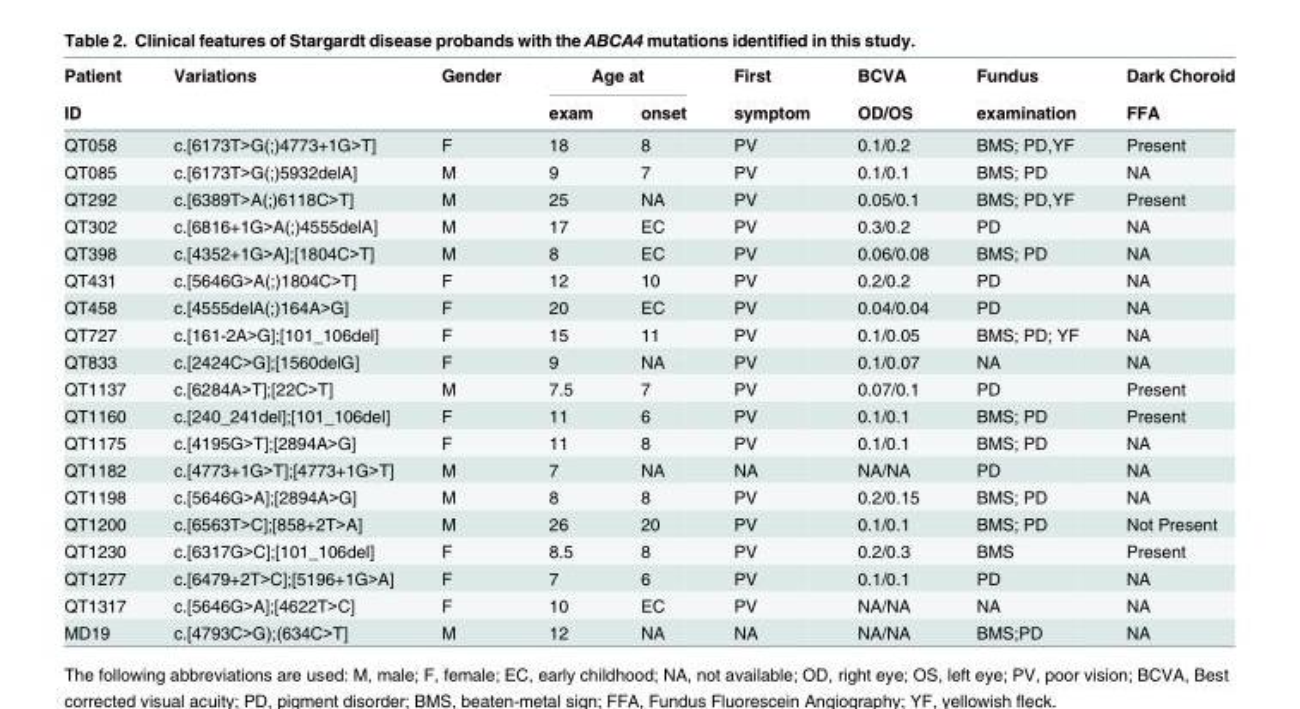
<table><thead><tr><td rowspan="2">Patient ID</td><td rowspan="2">Variations</td><td rowspan="2">Gender</td><td colspan="2">Age at</td><td rowspan="2">First symptom</td><td rowspan="2">BCVA OD/OS</td><td rowspan="2">Fundus examination</td><td rowspan="2">Dark Choroid FFA</td></tr><tr><td>exam</td><td>onset</td></tr></thead><tbody><tr><td>QT058</td><td>c.[6173T&gt;G(;)4773+1G&gt;T]</td><td>F</td><td>18</td><td>8</td><td>PV</td><td>0.1/0.2</td><td>BMS; PD,YF</td><td>Present</td></tr><tr><td>QT085</td><td>c.[6173T&gt;G(;)5932delA]</td><td>M</td><td>9</td><td>7</td><td>PV</td><td>0.1/0.1</td><td>BMS; PD</td><td>NA</td></tr><tr><td>QT292</td><td>c.[6389T&gt;A(;)6118C&gt;T]</td><td>M</td><td>25</td><td>NA</td><td>PV</td><td>0.05/0.1</td><td>BMS; PD,YF</td><td>Present</td></tr><tr><td>QT302</td><td>c.[6816+1G&gt;A(;)4555delA]</td><td>M</td><td>17</td><td>EC</td><td>PV</td><td>0.3/0.2</td><td>PD</td><td>NA</td></tr><tr><td>QT398</td><td>c.[4352+1G&gt;A];[1804C&gt;T]</td><td>M</td><td>8</td><td>EC</td><td>PV</td><td>0.06/0.08</td><td>BMS; PD</td><td>NA</td></tr><tr><td>QT431</td><td>c.[5646G&gt;A(;)1804C&gt;T]</td><td>F</td><td>12</td><td>10</td><td>PV</td><td>0.2/0.2</td><td>PD</td><td>NA</td></tr><tr><td>QT458</td><td>c.[4555delA(;)164A&gt;G]</td><td>F</td><td>20</td><td>EC</td><td>PV</td><td>0.04/0.04</td><td>PD</td><td>NA</td></tr><tr><td>QT727</td><td>c.[161-2A&gt;G];[101_106del]</td><td>F</td><td>15</td><td>11</td><td>PV</td><td>0.1/0.05</td><td>BMS; PD; YF</td><td>NA</td></tr><tr><td>QT833</td><td>c.[2424C&gt;G];[1560delG]</td><td>F</td><td>9</td><td>NA</td><td>PV</td><td>0.1/0.07</td><td>NA</td><td>NA</td></tr><tr><td>QT1137</td><td>c.[6284A&gt;T];[22C&gt;T]</td><td>M</td><td>7.5</td><td>7</td><td>PV</td><td>0.07/0.1</td><td>PD</td><td>Present</td></tr><tr><td>QT1160</td><td>c.[240_241del];[101_106del]</td><td>F</td><td>11</td><td>6</td><td>PV</td><td>0.1/0.1</td><td>BMS; PD</td><td>Present</td></tr><tr><td>QT1175</td><td>c.[4195G&gt;T];[2894A&gt;G]</td><td>F</td><td>11</td><td>8</td><td>PV</td><td>0.1/0.1</td><td>BMS; PD</td><td>NA</td></tr><tr><td>QT1182</td><td>c.[4773+1G&gt;T];[4773+1G&gt;T]</td><td>M</td><td>7</td><td>NA</td><td>NA</td><td>NA/NA</td><td>PD</td><td>NA</td></tr><tr><td>QT1198</td><td>c.[5646G&gt;A];[2894A&gt;G]</td><td>M</td><td>8</td><td>8</td><td>PV</td><td>0.2/0.15</td><td>BMS; PD</td><td>NA</td></tr><tr><td>QT1200</td><td>c.[6563T&gt;C];[858+2T&gt;A]</td><td>M</td><td>26</td><td>20</td><td>PV</td><td>0.1/0.1</td><td>BMS; PD</td><td>Not Present</td></tr><tr><td>QT1230</td><td>c.[6317G&gt;C];[101_106del]</td><td>F</td><td>8.5</td><td>8</td><td>PV</td><td>0.2/0.3</td><td>BMS</td><td>Present</td></tr><tr><td>QT1277</td><td>c.[6479+2T&gt;C];[5196+1G&gt;A]</td><td>F</td><td>7</td><td>6</td><td>PV</td><td>0.1/0.1</td><td>PD</td><td>NA</td></tr><tr><td>QT1317</td><td>c.[5646G&gt;A];[4622T&gt;C]</td><td>F</td><td>10</td><td>EC</td><td>PV</td><td>NA/NA</td><td>NA</td><td>NA</td></tr><tr><td>MD19</td><td>c.[4793C&gt;G);(634C&gt;T]</td><td>M</td><td>12</td><td>NA</td><td>NA</td><td>NA/NA</td><td>BMS;PD</td><td>NA</td></tr></tbody></table>